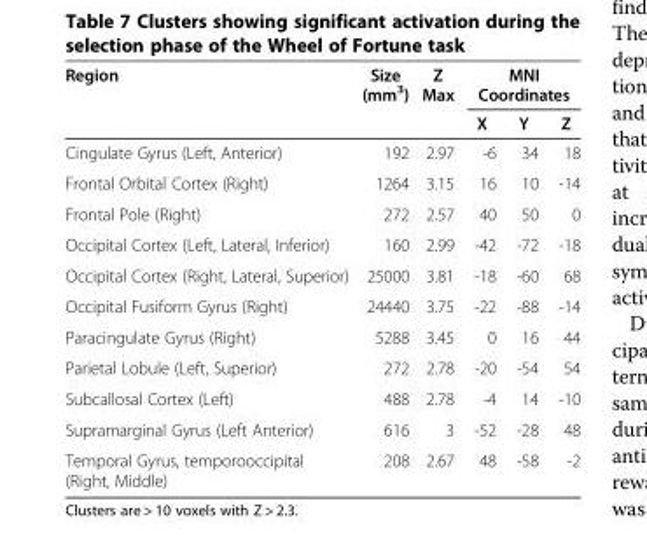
<table><thead><tr><td rowspan="2">Region</td><td rowspan="2">Size (mm<sup>3</sup>)</td><td rowspan="2">Z Max</td><td colspan="3">MNI Coordinates</td></tr><tr><td>X</td><td>Y</td><td>Z</td></tr></thead><tbody><tr><td>Cingulate Gyrus (Left, Anterior)</td><td>192</td><td>2.97</td><td>-6</td><td>34</td><td>18</td></tr><tr><td>Frontal Orbital Cortex (Right)</td><td>1264</td><td>3.15</td><td>16</td><td>10</td><td>-14</td></tr><tr><td>Frontal Pole (Right)</td><td>272</td><td>2.57</td><td>40</td><td>50</td><td>0</td></tr><tr><td>Occipital Cortex (Left, Lateral, Inferior)</td><td>160</td><td>2.99</td><td>-42</td><td>-72</td><td>-18</td></tr><tr><td>Occipital Cortex (Right, Lateral, Superior)</td><td>25000</td><td>3.81</td><td>-18</td><td>-60</td><td>68</td></tr><tr><td>Occipital Fusiform Gyrus (Right)</td><td>24440</td><td>3.75</td><td>-22</td><td>-88</td><td>-14</td></tr><tr><td>Paracingulate Gyrus (Right)</td><td>5288</td><td>3.45</td><td>0</td><td>16</td><td>44</td></tr><tr><td>Parietal Lobule (Left, Superior)</td><td>272</td><td>2.78</td><td>-20</td><td>-54</td><td>54</td></tr><tr><td>Subcallosal Cortex (Left)</td><td>488</td><td>2.78</td><td>-4</td><td>14</td><td>-10</td></tr><tr><td>Supramarginal Gyrus (Left Anterior)</td><td>616</td><td>3</td><td>-52</td><td>-28</td><td>48</td></tr><tr><td>Temporal Gyrus, temporooccipital (Right, Middle)</td><td>208</td><td>2.67</td><td>48</td><td>-58</td><td>-2</td></tr></tbody></table>